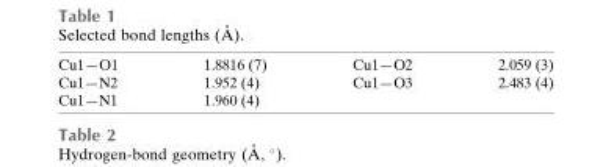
<table><tbody><tr><td>Cu1—O1</td><td>1.8816 (7)</td><td>Cu1—O2</td><td>2.059 (3)</td></tr><tr><td>Cu1—N2</td><td>1.952 (4)</td><td>Cu1—O3</td><td>2.483 (4)</td></tr><tr><td>Cu1—N1</td><td>1.960 (4)</td><td></td><td></td></tr></tbody></table>